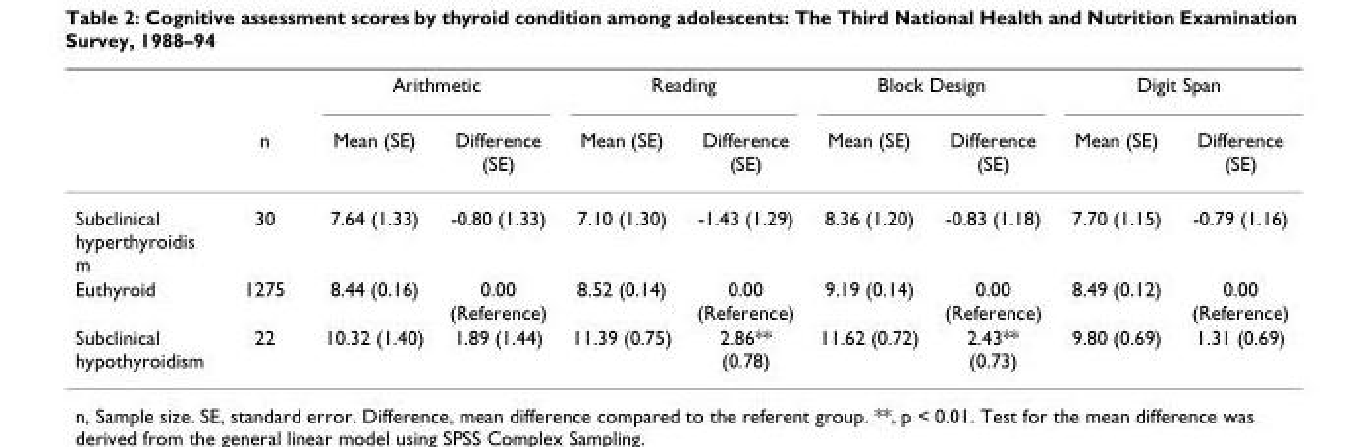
<table><thead><tr><td rowspan="2"></td><td rowspan="2">n</td><td colspan="2">Arithmetic</td><td colspan="2">Reading</td><td colspan="2">Block Design</td><td colspan="2">Digit Span</td></tr><tr><td>Mean (SE)</td><td>Difference (SE)</td><td>Mean (SE)</td><td>Difference (SE)</td><td>Mean (SE)</td><td>Difference (SE)</td><td>Mean (SE)</td><td>Difference (SE)</td></tr></thead><tbody><tr><td>Subclinical hyperthyroidis m</td><td>30</td><td>7.64 (1.33)</td><td>-0.80 (1.33)</td><td>7.10 (1.30)</td><td>-1.43 (1.29)</td><td>8.36 (1.20)</td><td>-0.83 (1.18)</td><td>7.70 (1.15)</td><td>-0.79 (1.16)</td></tr><tr><td>Euthyroid</td><td>1275</td><td>8.44 (0.16)</td><td>0.00 (Reference)</td><td>8.52 (0.14)</td><td>0.00 (Reference)</td><td>9.19 (0.14)</td><td>0.00 (Reference)</td><td>8.49 (0.12)</td><td>0.00 (Reference)</td></tr><tr><td>Subclinical hypothyroidism</td><td>22</td><td>10.32 (1.40)</td><td>1.89 (1.44)</td><td>11.39 (0.75)</td><td>2.86** (0.78)</td><td>11.62 (0.72)</td><td>2.43** (0.73)</td><td>9.80 (0.69)</td><td>1.31 (0.69)</td></tr></tbody></table>